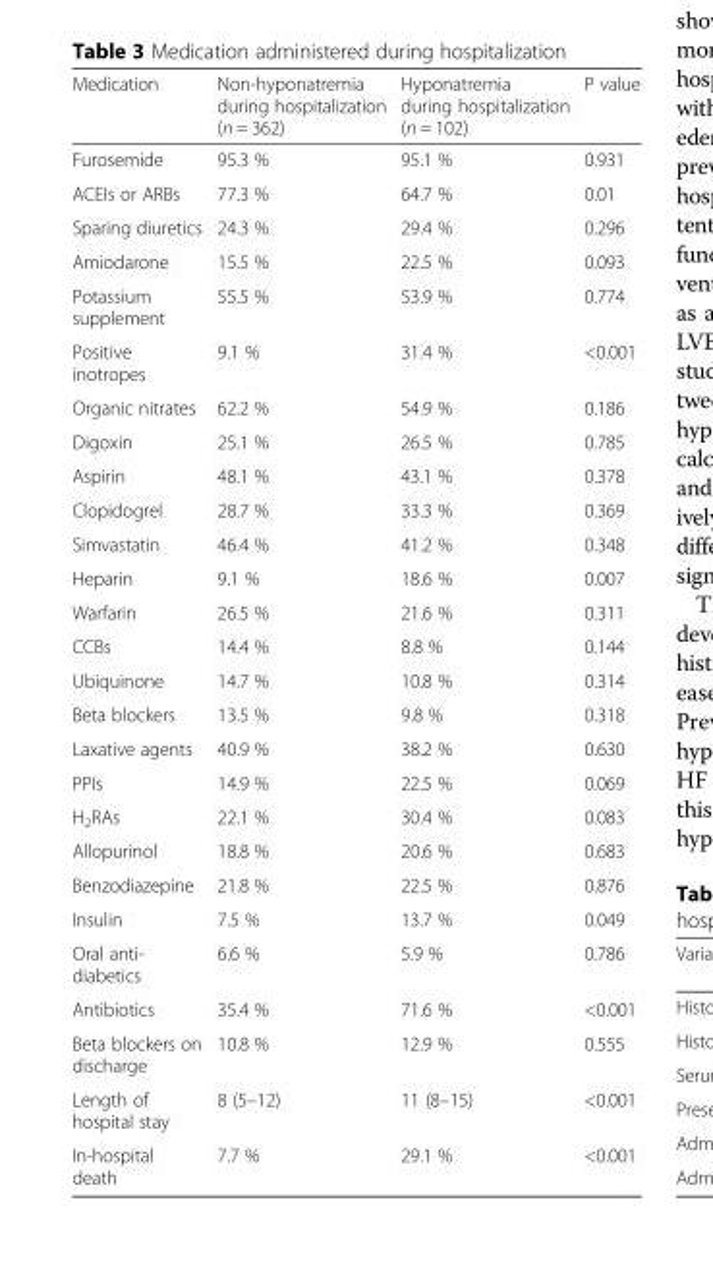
<table><thead><tr><td>Medication</td><td>Non-hyponatremia during hospitalization (n = 362)</td><td>Hyponatremia during hospitalization (n = 102)</td><td>P value</td></tr></thead><tbody><tr><td>Furosemide</td><td>95.3 %</td><td>95.1 %</td><td>0.931</td></tr><tr><td>ACEIs or ARBs</td><td>77.3 %</td><td>64.7 %</td><td>0.01</td></tr><tr><td>Sparing diuretics</td><td>24.3 %</td><td>29.4 %</td><td>0.296</td></tr><tr><td>Amiodarone</td><td>15.5 %</td><td>22.5 %</td><td>0.093</td></tr><tr><td>Potassium supplement</td><td>55.5 %</td><td>53.9 %</td><td>0.774</td></tr><tr><td>Positive inotropes</td><td>9.1 %</td><td>31.4 %</td><td>&lt;0.001</td></tr><tr><td>Organic nitrates</td><td>62.2 %</td><td>54.9 %</td><td>0.186</td></tr><tr><td>Digoxin</td><td>25.1 %</td><td>26.5 %</td><td>0.785</td></tr><tr><td>Aspirin</td><td>48.1 %</td><td>43.1 %</td><td>0.378</td></tr><tr><td>Clopidogrel</td><td>28.7 %</td><td>33.3 %</td><td>0.369</td></tr><tr><td>Simvastatin</td><td>46.4 %</td><td>41.2 %</td><td>0.348</td></tr><tr><td>Heparin</td><td>9.1 %</td><td>18.6 %</td><td>0.007</td></tr><tr><td>Warfarin</td><td>26.5 %</td><td>21.6 %</td><td>0.311</td></tr><tr><td>CCBs</td><td>14.4 %</td><td>8.8 %</td><td>0.144</td></tr><tr><td>Ubiquinone</td><td>14.7 %</td><td>10.8 %</td><td>0.314</td></tr><tr><td>Beta blockers</td><td>13.5 %</td><td>9.8 %</td><td>0.318</td></tr><tr><td>Laxative agents</td><td>40.9 %</td><td>38.2 %</td><td>0.630</td></tr><tr><td>PPIs</td><td>14.9 %</td><td>22.5 %</td><td>0.069</td></tr><tr><td>H<sub>2</sub>RAs</td><td>22.1 %</td><td>30.4 %</td><td>0.083</td></tr><tr><td>Allopurinol</td><td>18.8 %</td><td>20.6 %</td><td>0.683</td></tr><tr><td>Benzodiazepine</td><td>21.8 %</td><td>22.5 %</td><td>0.876</td></tr><tr><td>Insulin</td><td>7.5 %</td><td>13.7 %</td><td>0.049</td></tr><tr><td>Oral anti- diabetics</td><td>6.6 %</td><td>5.9 %</td><td>0.786</td></tr><tr><td>Antibiotics</td><td>35.4 %</td><td>71.6 %</td><td>&lt;0.001</td></tr><tr><td>Beta blockers on discharge</td><td>10.8 %</td><td>12.9 %</td><td>0.555</td></tr><tr><td>Length of hospital stay</td><td>8 (5–12)</td><td>11 (8–15)</td><td>&lt;0.001</td></tr><tr><td>In-hospital death</td><td>7.7 %</td><td>29.1 %</td><td>&lt;0.001</td></tr></tbody></table>